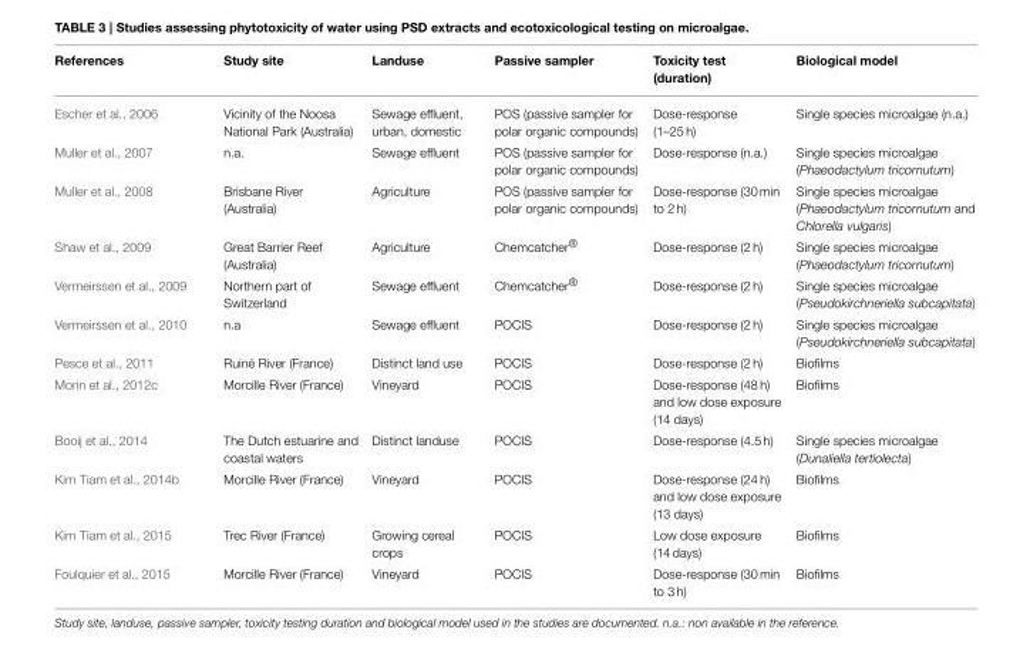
<table><thead><tr><td>References</td><td>Study site</td><td>Landuse</td><td>Passive sampler</td><td>Toxicity test (duration)</td><td>Biological model</td></tr></thead><tbody><tr><td>Escher et al., 2006</td><td>Vicinity of the Noosa National Park (Australia)</td><td>Sewage effluent, urban, domestic</td><td>POS (passive sampler for polar organic compounds)</td><td>Dose-response (1–25 h)</td><td>Single species microalgae (n.a.)</td></tr><tr><td>Muller et al., 2007</td><td>n.a.</td><td>Sewage effluent</td><td>POS (passive sampler for polar organic compounds)</td><td>Dose-response (n.a.)</td><td>Single species microalgae (Phaeodactylum tricornutum)</td></tr><tr><td>Muller et al., 2008</td><td>Brisbane River (Australia)</td><td>Agriculture</td><td>POS (passive sampler for polar organic compounds)</td><td>Dose-response (30 min to 2 h)</td><td>Single species microalgae (Phaeodactylum tricornutum and Chlorella vulgaris)</td></tr><tr><td>Shaw et al., 2009</td><td>Great Barrier Reef (Australia)</td><td>Agriculture</td><td>Chemcatcher®</td><td>Dose-response (2 h)</td><td>Single species microalgae (Phaeodactylum tricornutum)</td></tr><tr><td>Vermeirssen et al., 2009</td><td>Northern part of Switzerland</td><td>Sewage effluent</td><td>Chemcatcher®</td><td>Dose-response (2 h)</td><td>Single species microalgae (Pseudokirchneriella subcapitata)</td></tr><tr><td>Vermeirssen et al., 2010</td><td>n.a</td><td>Sewage effluent</td><td>POCIS</td><td>Dose-response (2 h)</td><td>Single species microalgae (Pseudokirchneriella subcapitata)</td></tr><tr><td>Pesce et al., 2011</td><td>Ruiné River (France)</td><td>Distinct land use</td><td>POCIS</td><td>Dose-response (2 h)</td><td>Biofilms</td></tr><tr><td>Morin et al., 2012c</td><td>Morcille River (France)</td><td>Vineyard</td><td>POCIS</td><td>Dose-response (48 h) and low dose exposure (14 days)</td><td>Biofilms</td></tr><tr><td>Booij et al., 2014</td><td>The Dutch estuarine and coastal waters</td><td>Distinct landuse</td><td>POCIS</td><td>Dose-response (4.5 h)</td><td>Single species microalgae (Dunaliella tertiolecta)</td></tr><tr><td>Kim Tiam et al., 2014b</td><td>Morcille River (France)</td><td>Vineyard</td><td>POCIS</td><td>Dose-response (24 h) and low dose exposure (13 days)</td><td>Biofilms</td></tr><tr><td>Kim Tiam et al., 2015</td><td>Trec River (France)</td><td>Growing cereal crops</td><td>POCIS</td><td>Low dose exposure (14 days)</td><td>Biofilms</td></tr><tr><td>Foulquier et al., 2015</td><td>Morcille River (France)</td><td>Vineyard</td><td>POCIS</td><td>Dose-response (30 min to 3 h)</td><td>Biofilms</td></tr></tbody></table>